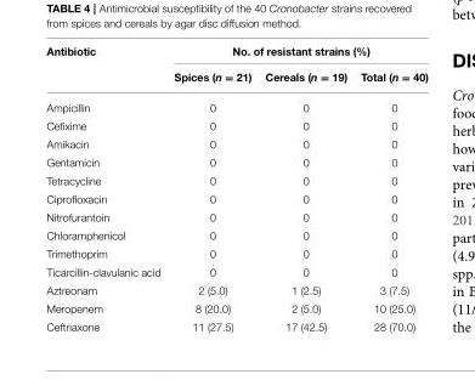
<table><thead><tr><td rowspan="2">Antibiotic</td><td colspan="3">No. of resistant strains (%)</td></tr><tr><td>Spices (n = 21)</td><td>Cereals (n = 19)</td><td>Total (n = 40)</td></tr></thead><tbody><tr><td>Ampicillin</td><td>0</td><td>0</td><td>0</td></tr><tr><td>Cefixime</td><td>0</td><td>0</td><td>0</td></tr><tr><td>Amikacin</td><td>0</td><td>0</td><td>0</td></tr><tr><td>Gentamicin</td><td>0</td><td>0</td><td>0</td></tr><tr><td>Tetracycline</td><td>0</td><td>0</td><td>0</td></tr><tr><td>Ciprofloxacin</td><td>0</td><td>0</td><td>0</td></tr><tr><td>Nitrofurantoin</td><td>0</td><td>0</td><td>0</td></tr><tr><td>Chloramphenicol</td><td>0</td><td>0</td><td>0</td></tr><tr><td>Trimethoprim</td><td>0</td><td>0</td><td>0</td></tr><tr><td>Ticarcillin-clavulanic acid</td><td>0</td><td>0</td><td>0</td></tr><tr><td>Aztreonam</td><td>2 (5.0)</td><td>1 (2.5)</td><td>3 (7.5)</td></tr><tr><td>Meropenem</td><td>8 (20.0)</td><td>2 (5.0)</td><td>10 (25.0)</td></tr><tr><td>Ceftriaxone</td><td>11 (27.5)</td><td>17 (42.5)</td><td>28 (70.0)</td></tr></tbody></table>